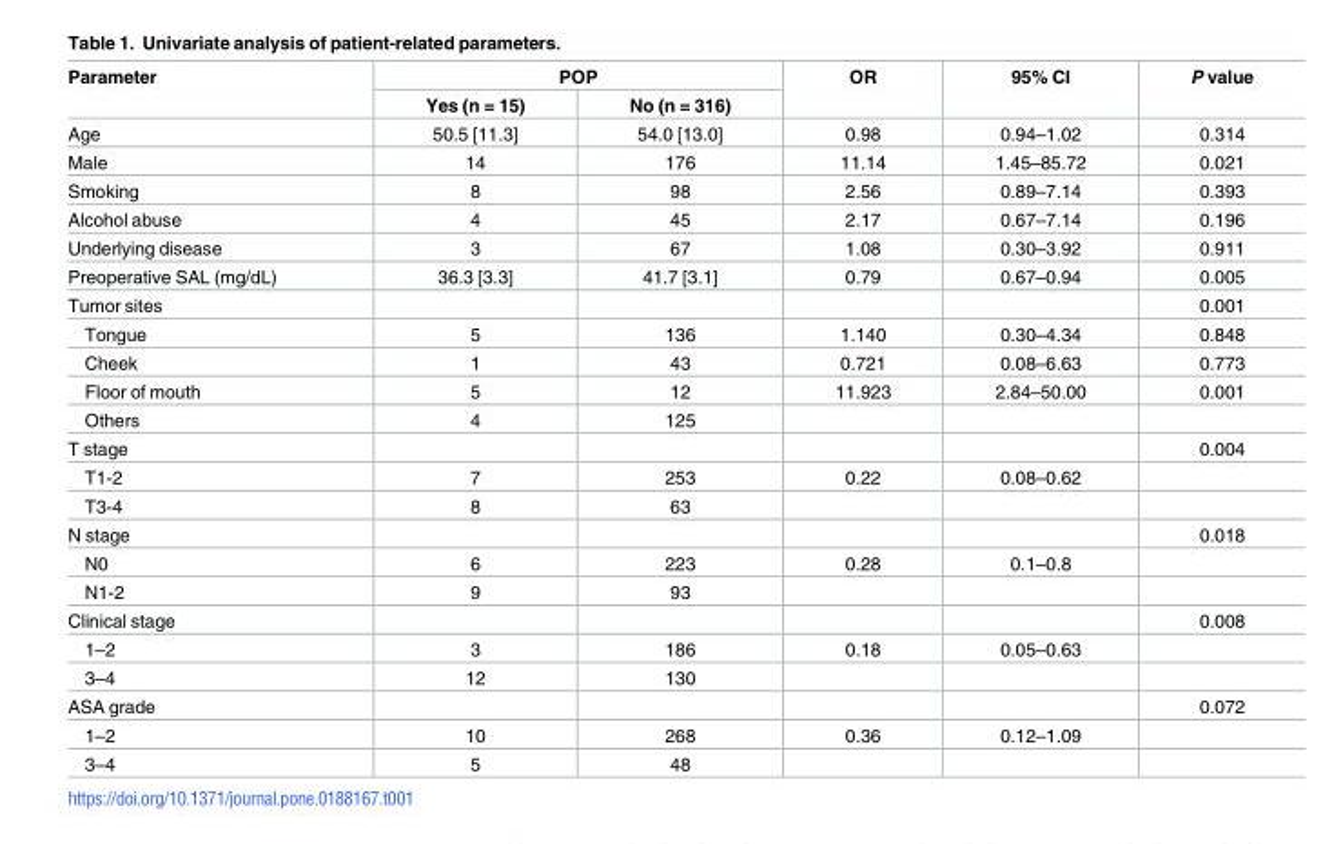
<table><thead><tr><td rowspan="2">Parameter</td><td colspan="2">POP</td><td rowspan="2">OR</td><td rowspan="2">95% CI</td><td rowspan="2">P value</td></tr><tr><td>Yes (n = 15)</td><td>No (n = 316)</td></tr></thead><tbody><tr><td>Age</td><td>50.5 [11.3]</td><td>54.0 [13.0]</td><td>0.98</td><td>0.94–1.02</td><td>0.314</td></tr><tr><td>Male</td><td>14</td><td>176</td><td>11.14</td><td>1.45–85.72</td><td>0.021</td></tr><tr><td>Smoking</td><td>8</td><td>98</td><td>2.56</td><td>0.89–7.14</td><td>0.393</td></tr><tr><td>Alcohol abuse</td><td>4</td><td>45</td><td>2.17</td><td>0.67–7.14</td><td>0.196</td></tr><tr><td>Underlying disease</td><td>3</td><td>67</td><td>1.08</td><td>0.30–3.92</td><td>0.911</td></tr><tr><td>Preoperative SAL (mg/dL)</td><td>36.3 [3.3]</td><td>41.7 [3.1]</td><td>0.79</td><td>0.67–0.94</td><td>0.005</td></tr><tr><td>Tumor sites</td><td></td><td></td><td></td><td></td><td>0.001</td></tr><tr><td>Tongue</td><td>5</td><td>136</td><td>1.140</td><td>0.30–4.34</td><td>0.848</td></tr><tr><td>Cheek</td><td>1</td><td>43</td><td>0.721</td><td>0.08–6.63</td><td>0.773</td></tr><tr><td>Floor of mouth</td><td>5</td><td>12</td><td>11.923</td><td>2.84–50.00</td><td>0.001</td></tr><tr><td>Others</td><td>4</td><td>125</td><td></td><td></td><td></td></tr><tr><td>T stage</td><td></td><td></td><td></td><td></td><td>0.004</td></tr><tr><td>T1-2</td><td>7</td><td>253</td><td>0.22</td><td>0.08–0.62</td><td></td></tr><tr><td>T3-4</td><td>8</td><td>63</td><td></td><td></td><td></td></tr><tr><td>N stage</td><td></td><td></td><td></td><td></td><td>0.018</td></tr><tr><td>N0</td><td>6</td><td>223</td><td>0.28</td><td>0.1–0.8</td><td></td></tr><tr><td>N1-2</td><td>9</td><td>93</td><td></td><td></td><td></td></tr><tr><td>Clinical stage</td><td></td><td></td><td></td><td></td><td>0.008</td></tr><tr><td>1–2</td><td>3</td><td>186</td><td>0.18</td><td>0.05–0.63</td><td></td></tr><tr><td>3–4</td><td>12</td><td>130</td><td></td><td></td><td></td></tr><tr><td>ASA grade</td><td></td><td></td><td></td><td></td><td>0.072</td></tr><tr><td>1–2</td><td>10</td><td>268</td><td>0.36</td><td>0.12–1.09</td><td></td></tr><tr><td>3–4</td><td>5</td><td>48</td><td></td><td></td><td></td></tr></tbody></table>